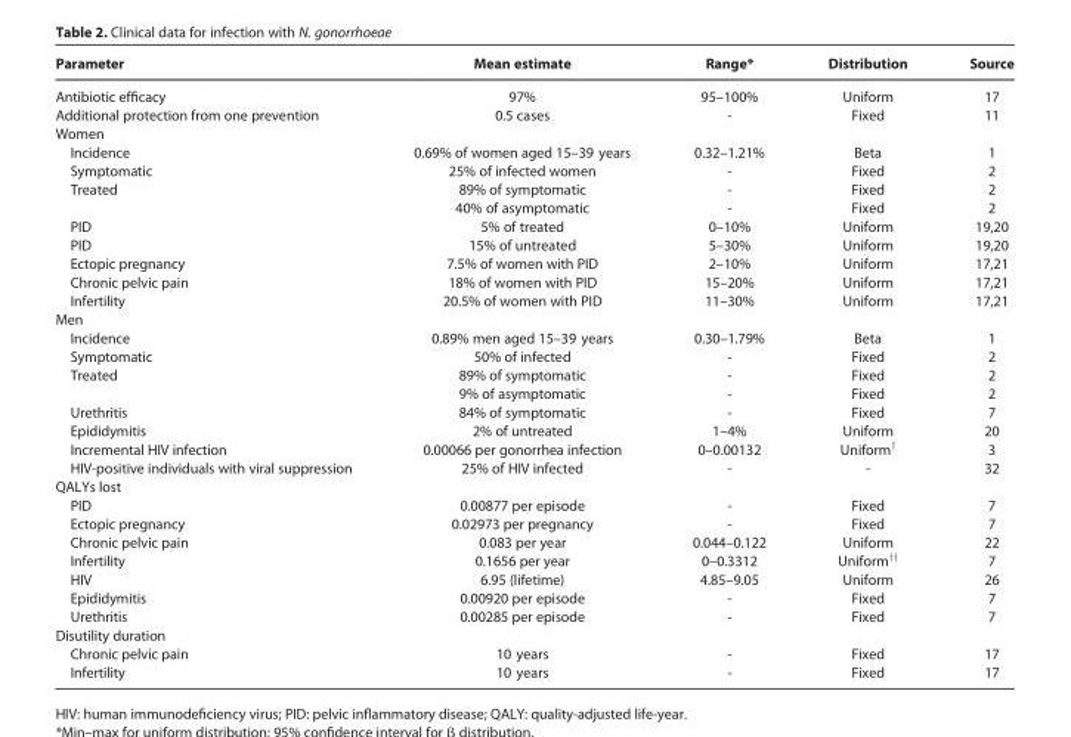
<table><thead><tr><td>Parameter</td><td>Mean estimate</td><td>Range*</td><td>Distribution</td><td>Source</td></tr></thead><tbody><tr><td>Antibiotic efficacy</td><td>97%</td><td>95–100%</td><td>Uniform</td><td>17</td></tr><tr><td>Additional protection from one prevention</td><td>0.5 cases</td><td>-</td><td>Fixed</td><td>11</td></tr><tr><td colspan="5">Women</td></tr><tr><td>Incidence</td><td>0.69% of women aged 15–39 years</td><td>0.32–1.21%</td><td>Beta</td><td>1</td></tr><tr><td>Symptomatic</td><td>25% of infected women</td><td>-</td><td>Fixed</td><td>2</td></tr><tr><td rowspan="2">Treated</td><td>89% of symptomatic</td><td>-</td><td>Fixed</td><td>2</td></tr><tr><td>40% of asymptomatic</td><td>-</td><td>Fixed</td><td>2</td></tr><tr><td>PID</td><td>5% of treated</td><td>0–10%</td><td>Uniform</td><td>19,20</td></tr><tr><td>PID</td><td>15% of untreated</td><td>5–30%</td><td>Uniform</td><td>19,20</td></tr><tr><td>Ectopic pregnancy</td><td>7.5% of women with PID</td><td>2–10%</td><td>Uniform</td><td>17,21</td></tr><tr><td>Chronic pelvic pain</td><td>18% of women with PID</td><td>15–20%</td><td>Uniform</td><td>17,21</td></tr><tr><td>Infertility</td><td>20.5% of women with PID</td><td>11–30%</td><td>Uniform</td><td>17,21</td></tr><tr><td colspan="5">Men</td></tr><tr><td>Incidence</td><td>0.89% men aged 15–39 years</td><td>0.30–1.79%</td><td>Beta</td><td>1</td></tr><tr><td>Symptomatic</td><td>50% of infected</td><td>-</td><td>Fixed</td><td>2</td></tr><tr><td rowspan="2">Treated</td><td>89% of symptomatic</td><td>-</td><td>Fixed</td><td>2</td></tr><tr><td>9% of asymptomatic</td><td>-</td><td>Fixed</td><td>2</td></tr><tr><td>Urethritis</td><td>84% of symptomatic</td><td>-</td><td>Fixed</td><td>7</td></tr><tr><td>Epididymitis</td><td>2% of untreated</td><td>1–4%</td><td>Uniform</td><td>20</td></tr><tr><td>Incremental HIV infection</td><td>0.00066 per gonorrhea infection</td><td>0–0.00132</td><td>Uniform<sup>†</sup></td><td>3</td></tr><tr><td>HIV-positive individuals with viral suppression</td><td>25% of HIV infected</td><td>-</td><td>-</td><td>32</td></tr><tr><td colspan="5">QALYs lost</td></tr><tr><td>PID</td><td>0.00877 per episode</td><td>-</td><td>Fixed</td><td>7</td></tr><tr><td>Ectopic pregnancy</td><td>0.02973 per pregnancy</td><td>-</td><td>Fixed</td><td>7</td></tr><tr><td>Chronic pelvic pain</td><td>0.083 per year</td><td>0.044–0.122</td><td>Uniform</td><td>22</td></tr><tr><td>Infertility</td><td>0.1656 per year</td><td>0–0.3312</td><td>Uniform<sup>††</sup></td><td>7</td></tr><tr><td>HIV</td><td>6.95 (lifetime)</td><td>4.85–9.05</td><td>Uniform</td><td>26</td></tr><tr><td>Epididymitis</td><td>0.00920 per episode</td><td>-</td><td>Fixed</td><td>7</td></tr><tr><td>Urethritis</td><td>0.00285 per episode</td><td>-</td><td>Fixed</td><td>7</td></tr><tr><td colspan="5">Disutility duration</td></tr><tr><td>Chronic pelvic pain</td><td>10 years</td><td>-</td><td>Fixed</td><td>17</td></tr><tr><td>Infertility</td><td>10 years</td><td>-</td><td>Fixed</td><td>17</td></tr></tbody></table>